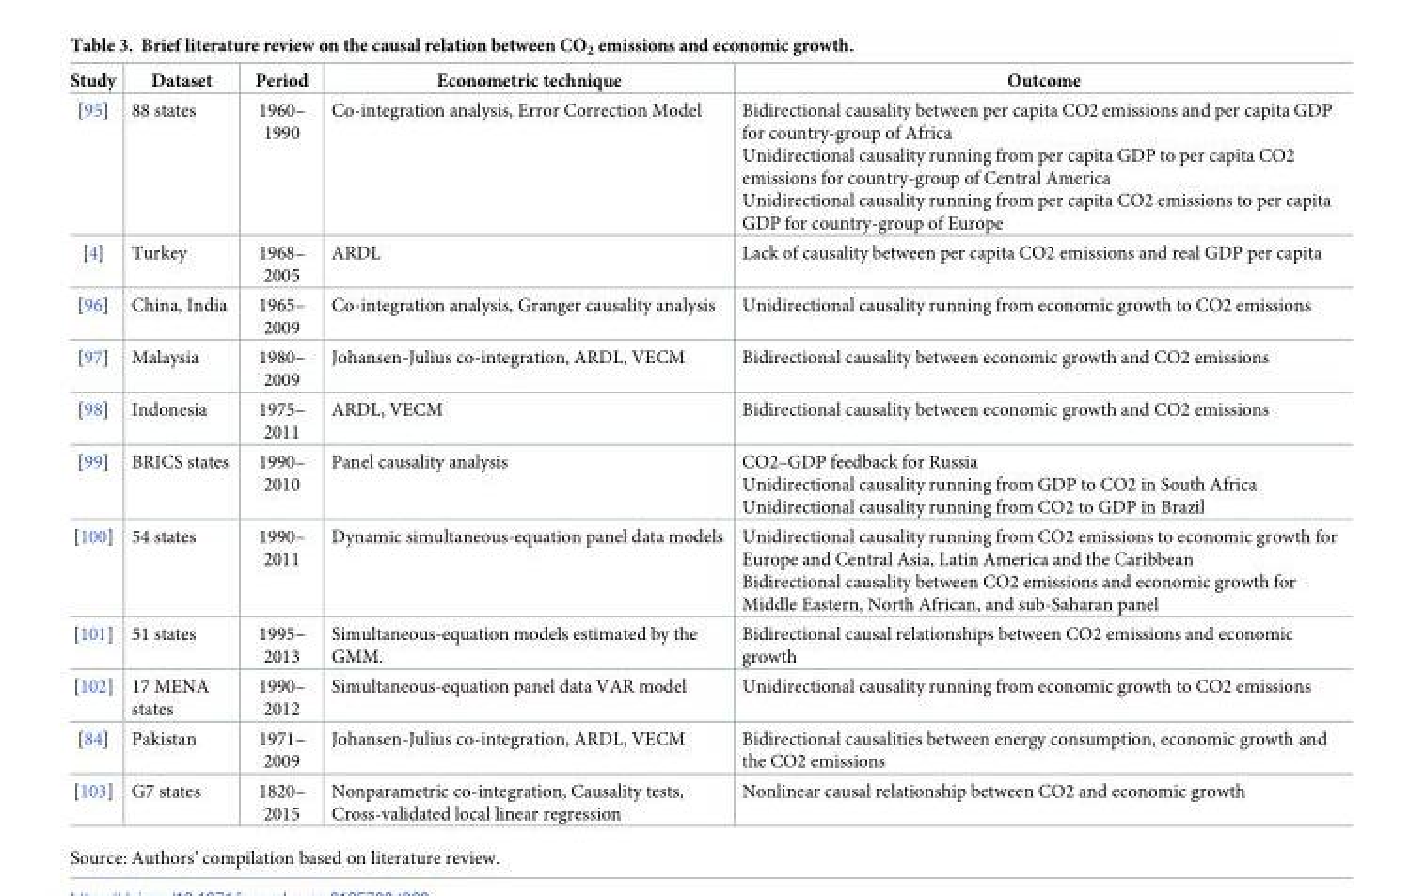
<table><thead><tr><td>Study</td><td>Dataset</td><td>Period</td><td>Econometric technique</td><td>Outcome</td></tr></thead><tbody><tr><td>[95]</td><td>88 states</td><td>1960– 1990</td><td>Co-integration analysis, Error Correction Model</td><td>Bidirectional causality between per capita CO2 emissions and per capita GDP for country-group of Africa Unidirectional causality running from per capita GDP to per capita CO2 emissions for country-group of Central America Unidirectional causality running from per capita CO2 emissions to per capita GDP for country-group of Europe</td></tr><tr><td>[4]</td><td>Turkey</td><td>1968– 2005</td><td>ARDL</td><td>Lack of causality between per capita CO2 emissions and real GDP per capita</td></tr><tr><td>[96]</td><td>China, India</td><td>1965– 2009</td><td>Co-integration analysis, Granger causality analysis</td><td>Unidirectional causality running from economic growth to CO2 emissions</td></tr><tr><td>[97]</td><td>Malaysia</td><td>1980– 2009</td><td>Johansen-Julius co-integration, ARDL, VECM</td><td>Bidirectional causality between economic growth and CO2 emissions</td></tr><tr><td>[98]</td><td>Indonesia</td><td>1975– 2011</td><td>ARDL, VECM</td><td>Bidirectional causality between economic growth and CO2 emissions</td></tr><tr><td>[99]</td><td>BRICS states</td><td>1990– 2010</td><td>Panel causality analysis</td><td>CO2–GDP feedback for Russia Unidirectional causality running from GDP to CO2 in South Africa Unidirectional causality running from CO2 to GDP in Brazil</td></tr><tr><td>[100]</td><td>54 states</td><td>1990– 2011</td><td>Dynamic simultaneous-equation panel data models</td><td>Unidirectional causality running from CO2 emissions to economic growth for Europe and Central Asia, Latin America and the Caribbean Bidirectional causality between CO2 emissions and economic growth for Middle Eastern, North African, and sub-Saharan panel</td></tr><tr><td>[101]</td><td>51 states</td><td>1995– 2013</td><td>Simultaneous-equation models estimated by the GMM.</td><td>Bidirectional causal relationships between CO2 emissions and economic growth</td></tr><tr><td>[102]</td><td>17 MENA states</td><td>1990– 2012</td><td>Simultaneous-equation panel data VAR model</td><td>Unidirectional causality running from economic growth to CO2 emissions</td></tr><tr><td>[84]</td><td>Pakistan</td><td>1971– 2009</td><td>Johansen-Julius co-integration, ARDL, VECM</td><td>Bidirectional causalities between energy consumption, economic growth and the CO2 emissions</td></tr><tr><td>[103]</td><td>G7 states</td><td>1820– 2015</td><td>Nonparametric co-integration, Causality tests, Cross-validated local linear regression</td><td>Nonlinear causal relationship between CO2 and economic growth</td></tr></tbody></table>